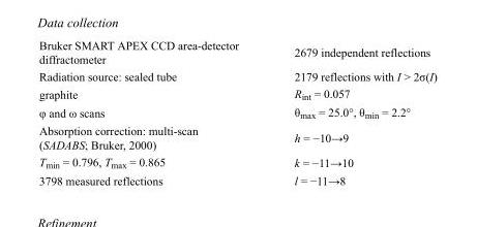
<table><tbody><tr><td>Bruker SMART APEX CCD area-detector diffractometer</td><td>2679 independent reflections</td></tr><tr><td>Radiation source: sealed tube</td><td>2179 reflections with I &gt; 2σ(I)</td></tr><tr><td>graphite</td><td>R<sub>int</sub> = 0.057</td></tr><tr><td>φ and ω scans</td><td>θ<sub>max</sub> = 25.0°, θ<sub>min</sub> = 2.2°</td></tr><tr><td>Absorption correction: multi-scan (SADABS; Bruker, 2000)</td><td>h = −10→9</td></tr><tr><td>T<sub>min</sub> = 0.796, T<sub>max</sub> = 0.865</td><td>k = −11→10</td></tr><tr><td>3798 measured reflections</td><td>l = −11→8</td></tr></tbody></table>